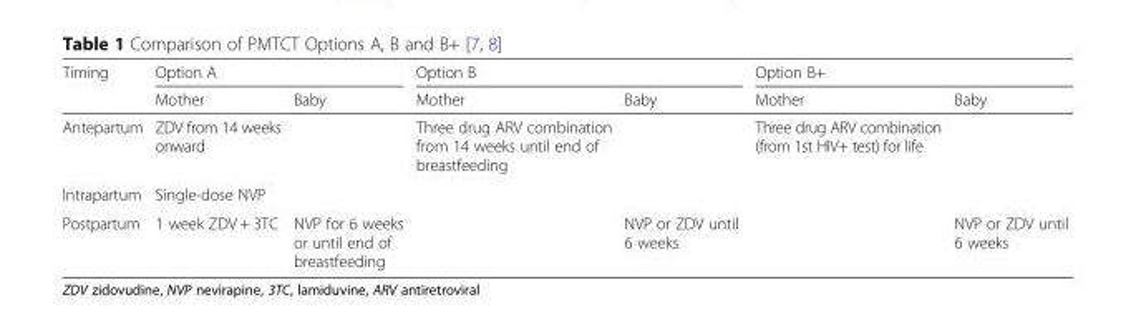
<table><thead><tr><td rowspan="2">Timing</td><td colspan="2">Option A</td><td colspan="2">Option B</td><td colspan="2">Option B+</td></tr><tr><td>Mother</td><td>Baby</td><td>Mother</td><td>Baby</td><td>Mother</td><td>Baby</td></tr></thead><tbody><tr><td>Antepartum</td><td>ZDV from 14 weeks onward</td><td></td><td>Three drug ARV combination from 14 weeks until end of breastfeeding</td><td></td><td>Three drug ARV combination (from 1st HIV+ test) for life</td><td></td></tr><tr><td>Intrapartum</td><td>Single-dose NVP</td><td></td><td></td><td></td><td></td><td></td></tr><tr><td>Postpartum</td><td>1 week ZDV + 3TC</td><td>NVP for 6 weeks or until end of breastfeeding</td><td></td><td>NVP or ZDV until 6 weeks</td><td></td><td>NVP or ZDV until 6 weeks</td></tr></tbody></table>